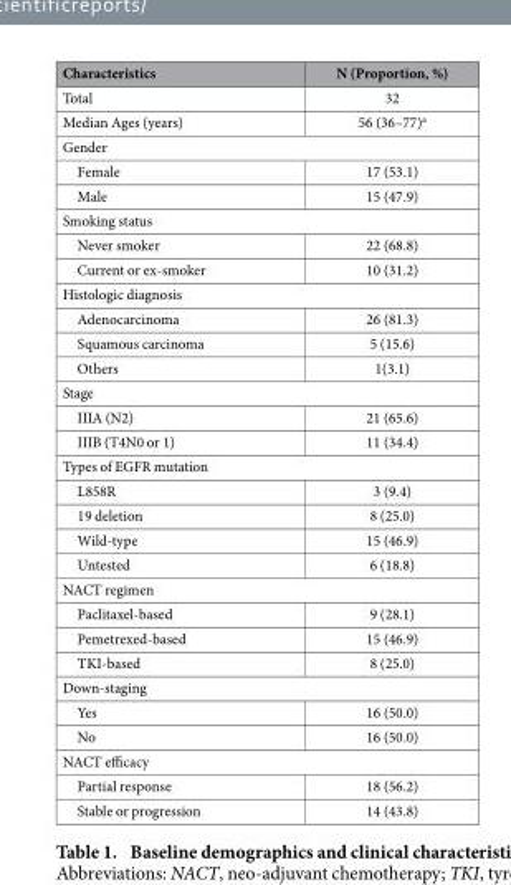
<table><thead><tr><td>Characteristics</td><td>N (Proportion, %)</td></tr></thead><tbody><tr><td>Total</td><td>32</td></tr><tr><td>Median Ages (years)</td><td>56 (36–77)<sup>a</sup></td></tr><tr><td colspan="2">Gender</td></tr><tr><td>Female</td><td>17 (53.1)</td></tr><tr><td>Male</td><td>15 (47.9)</td></tr><tr><td colspan="2">Smoking status</td></tr><tr><td>Never smoker</td><td>22 (68.8)</td></tr><tr><td>Current or ex-smoker</td><td>10 (31.2)</td></tr><tr><td colspan="2">Histologic diagnosis</td></tr><tr><td>Adenocarcinoma</td><td>26 (81.3)</td></tr><tr><td>Squamous carcinoma</td><td>5 (15.6)</td></tr><tr><td>Others</td><td>1(3.1)</td></tr><tr><td colspan="2">Stage</td></tr><tr><td>IIIA (N2)</td><td>21 (65.6)</td></tr><tr><td>IIIB (T4N0 or 1)</td><td>11 (34.4)</td></tr><tr><td colspan="2">Types of EGFR mutation</td></tr><tr><td>L858R</td><td>3 (9.4)</td></tr><tr><td>19 deletion</td><td>8 (25.0)</td></tr><tr><td>Wild-type</td><td>15 (46.9)</td></tr><tr><td>Untested</td><td>6 (18.8)</td></tr><tr><td colspan="2">NACT regimen</td></tr><tr><td>Paclitaxel-based</td><td>9 (28.1)</td></tr><tr><td>Pemetrexed-based</td><td>15 (46.9)</td></tr><tr><td>TKI-based</td><td>8 (25.0)</td></tr><tr><td colspan="2">Down-staging</td></tr><tr><td>Yes</td><td>16 (50.0)</td></tr><tr><td>No</td><td>16 (50.0)</td></tr><tr><td colspan="2">NACT efficacy</td></tr><tr><td>Partial response</td><td>18 (56.2)</td></tr><tr><td>Stable or progression</td><td>14 (43.8)</td></tr></tbody></table>